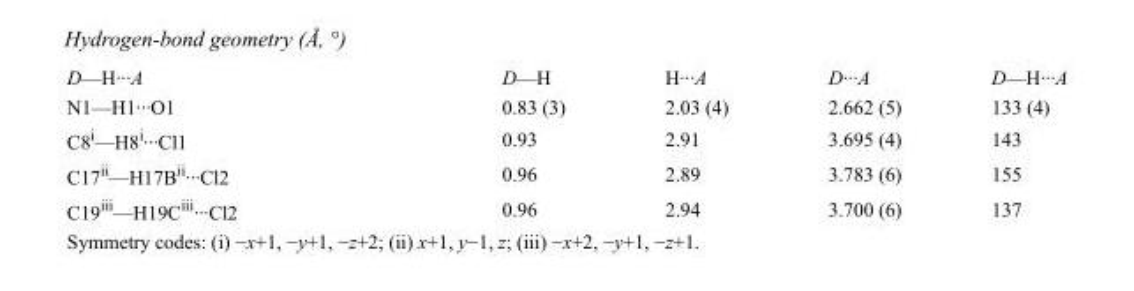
<table><tbody><tr><td>D—H···A</td><td>D—H</td><td>H···A</td><td>D···A</td><td>D—H···A</td></tr><tr><td>N1—H1···O1</td><td>0.83 (3)</td><td>2.03 (4)</td><td>2.662 (5)</td><td>133 (4)</td></tr><tr><td>C8<sup>i</sup>—H8<sup>i</sup>···Cl1</td><td>0.93</td><td>2.91</td><td>3.695 (4)</td><td>143</td></tr><tr><td>C17<sup>ii</sup>—H17B<sup>ii</sup>···Cl2</td><td>0.96</td><td>2.89</td><td>3.783 (6)</td><td>155</td></tr><tr><td>C19<sup>iii</sup>—H19C<sup>iii</sup>···Cl2</td><td>0.96</td><td>2.94</td><td>3.700 (6)</td><td>137</td></tr></tbody></table>